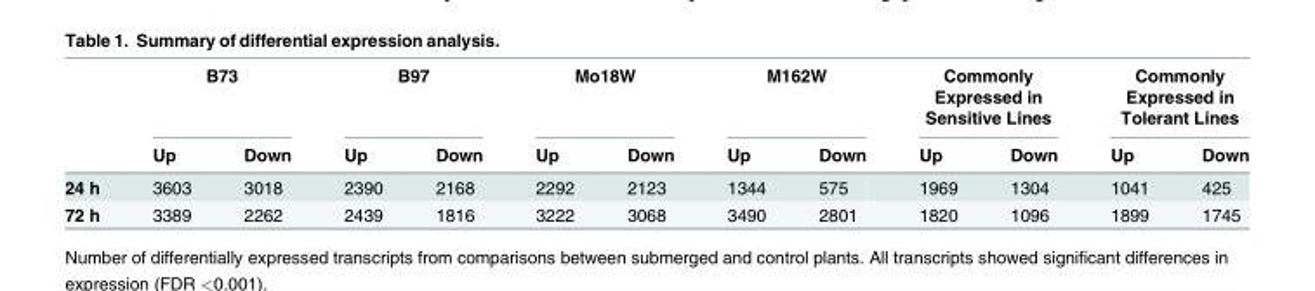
<table><thead><tr><td rowspan="2"></td><td colspan="2">B73</td><td colspan="2">B97</td><td colspan="2">Mo18W</td><td colspan="2">M162W</td><td colspan="2">Commonly Expressed in Sensitive Lines</td><td colspan="2">Commonly Expressed in Tolerant Lines</td></tr><tr><td>Up</td><td>Down</td><td>Up</td><td>Down</td><td>Up</td><td>Down</td><td>Up</td><td>Down</td><td>Up</td><td>Down</td><td>Up</td><td>Down</td></tr></thead><tbody><tr><td>24 h</td><td>3603</td><td>3018</td><td>2390</td><td>2168</td><td>2292</td><td>2123</td><td>1344</td><td>575</td><td>1969</td><td>1304</td><td>1041</td><td>425</td></tr><tr><td>72 h</td><td>3389</td><td>2262</td><td>2439</td><td>1816</td><td>3222</td><td>3068</td><td>3490</td><td>2801</td><td>1820</td><td>1096</td><td>1899</td><td>1745</td></tr></tbody></table>